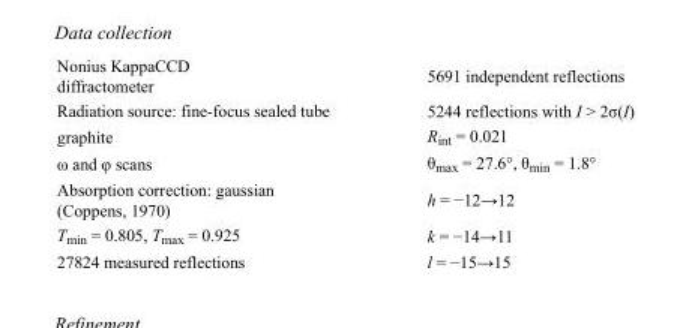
<table><tbody><tr><td>Nonius KappaCCD diffractometer</td><td>5691 independent reflections</td></tr><tr><td>Radiation source: fine-focus sealed tube</td><td>5244 reflections with I &gt; 2σ(I)</td></tr><tr><td>graphite</td><td>R<sub>int</sub> = 0.021</td></tr><tr><td>ω and φ scans</td><td>θ<sub>max</sub> = 27.6°, θ<sub>min</sub> = 1.8°</td></tr><tr><td>Absorption correction: gaussian (Coppens, 1970)</td><td>h = −12→12</td></tr><tr><td>T<sub>min</sub> = 0.805, T<sub>max</sub> = 0.925</td><td>k = −14→11</td></tr><tr><td>27824 measured reflections</td><td>l = −15→15</td></tr></tbody></table>